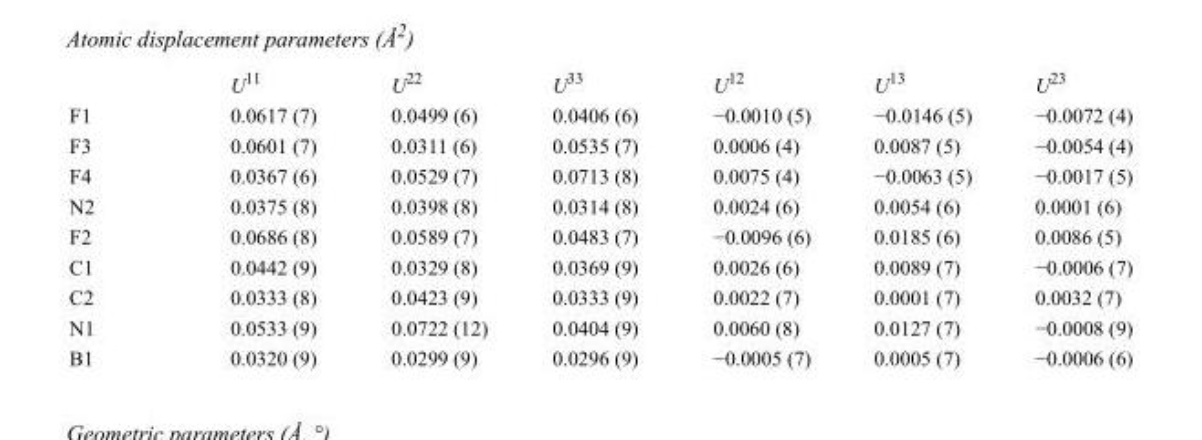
<table><thead><tr><td></td><td>U<sup>11</sup></td><td>U<sup>22</sup></td><td>U<sup>33</sup></td><td>U<sup>12</sup></td><td>U<sup>13</sup></td><td>U<sup>23</sup></td></tr></thead><tbody><tr><td>F1</td><td>0.0617 (7)</td><td>0.0499 (6)</td><td>0.0406 (6)</td><td>−0.0010 (5)</td><td>−0.0146 (5)</td><td>−0.0072 (4)</td></tr><tr><td>F3</td><td>0.0601 (7)</td><td>0.0311 (6)</td><td>0.0535 (7)</td><td>0.0006 (4)</td><td>0.0087 (5)</td><td>−0.0054 (4)</td></tr><tr><td>F4</td><td>0.0367 (6)</td><td>0.0529 (7)</td><td>0.0713 (8)</td><td>0.0075 (4)</td><td>−0.0063 (5)</td><td>−0.0017 (5)</td></tr><tr><td>N2</td><td>0.0375 (8)</td><td>0.0398 (8)</td><td>0.0314 (8)</td><td>0.0024 (6)</td><td>0.0054 (6)</td><td>0.0001 (6)</td></tr><tr><td>F2</td><td>0.0686 (8)</td><td>0.0589 (7)</td><td>0.0483 (7)</td><td>−0.0096 (6)</td><td>0.0185 (6)</td><td>0.0086 (5)</td></tr><tr><td>C1</td><td>0.0442 (9)</td><td>0.0329 (8)</td><td>0.0369 (9)</td><td>0.0026 (6)</td><td>0.0089 (7)</td><td>−0.0006 (7)</td></tr><tr><td>C2</td><td>0.0333 (8)</td><td>0.0423 (9)</td><td>0.0333 (9)</td><td>0.0022 (7)</td><td>0.0001 (7)</td><td>0.0032 (7)</td></tr><tr><td>N1</td><td>0.0533 (9)</td><td>0.0722 (12)</td><td>0.0404 (9)</td><td>0.0060 (8)</td><td>0.0127 (7)</td><td>−0.0008 (9)</td></tr><tr><td>B1</td><td>0.0320 (9)</td><td>0.0299 (9)</td><td>0.0296 (9)</td><td>−0.0005 (7)</td><td>0.0005 (7)</td><td>−0.0006 (6)</td></tr></tbody></table>